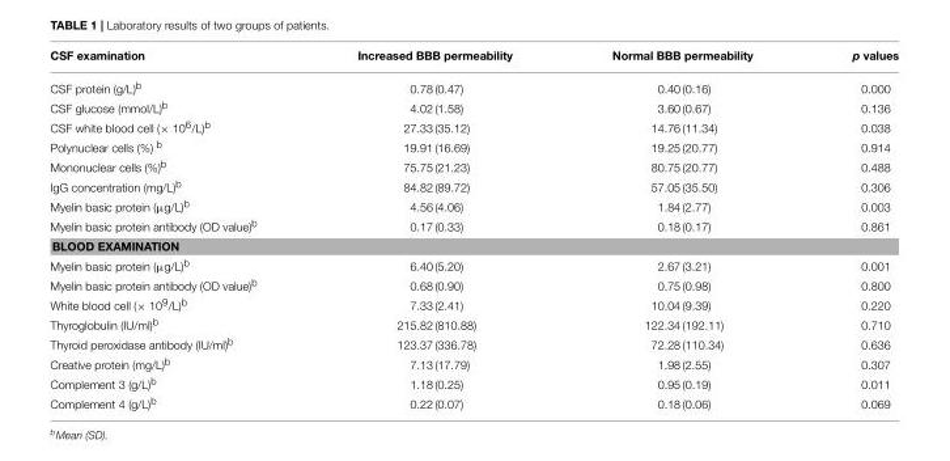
<table><thead><tr><td>CSF examination</td><td>Increased BBB permeability</td><td>Normal BBB permeability</td><td>p values</td></tr></thead><tbody><tr><td>CSF protein (g/L)<sup>b</sup></td><td>0.78 (0.47)</td><td>0.40 (0.16)</td><td>0.000</td></tr><tr><td>CSF glucose (mmol/L)<sup>b</sup></td><td>4.02 (1.58)</td><td>3.60 (0.67)</td><td>0.136</td></tr><tr><td>CSF white blood cell (× 10<sup>6</sup>/L)<sup>b</sup></td><td>27.33 (35.12)</td><td>14.76 (11.34)</td><td>0.038</td></tr><tr><td>Polynuclear cells (%) <sup>b</sup></td><td>19.91 (16.69)</td><td>19.25 (20.77)</td><td>0.914</td></tr><tr><td>Mononuclear cells (%)<sup>b</sup></td><td>75.75 (21.23)</td><td>80.75 (20.77)</td><td>0.488</td></tr><tr><td>IgG concentration (mg/L)<sup>b</sup></td><td>84.82 (89.72)</td><td>57.05 (35.50)</td><td>0.306</td></tr><tr><td>Myelin basic protein (µg/L)<sup>b</sup></td><td>4.56 (4.06)</td><td>1.84 (2.77)</td><td>0.003</td></tr><tr><td>Myelin basic protein antibody (OD value)<sup>b</sup></td><td>0.17 (0.33)</td><td>0.18 (0.17)</td><td>0.861</td></tr><tr><td colspan="4">BLOOD EXAMINATION</td></tr><tr><td>Myelin basic protein (µg/L)<sup>b</sup></td><td>6.40 (5.20)</td><td>2.67 (3.21)</td><td>0.001</td></tr><tr><td>Myelin basic protein antibody (OD value)<sup>b</sup></td><td>0.68 (0.90)</td><td>0.75 (0.98)</td><td>0.800</td></tr><tr><td>White blood cell (× 10<sup>9</sup>/L)<sup>b</sup></td><td>7.33 (2.41)</td><td>10.04 (9.39)</td><td>0.220</td></tr><tr><td>Thyroglobulin (IU/ml)<sup>b</sup></td><td>215.82 (810.88)</td><td>122.34 (192.11)</td><td>0.710</td></tr><tr><td>Thyroid peroxidase antibody (IU/ml)<sup>b</sup></td><td>123.37 (336.78)</td><td>72.28 (110.34)</td><td>0.636</td></tr><tr><td>Creative protein (mg/L)<sup>b</sup></td><td>7.13 (17.79)</td><td>1.98 (2.55)</td><td>0.307</td></tr><tr><td>Complement 3 (g/L)<sup>b</sup></td><td>1.18 (0.25)</td><td>0.95 (0.19)</td><td>0.011</td></tr><tr><td>Complement 4 (g/L)<sup>b</sup></td><td>0.22 (0.07)</td><td>0.18 (0.06)</td><td>0.069</td></tr></tbody></table>